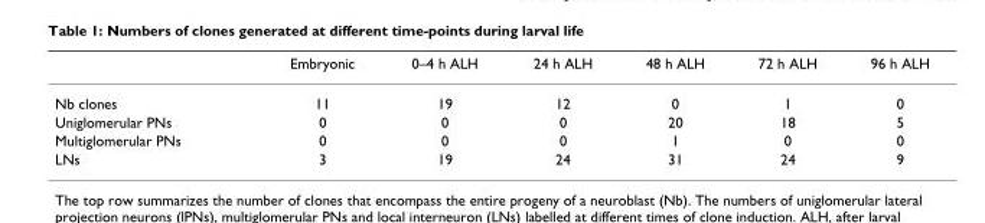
<table><thead><tr><td></td><td>Embryonic</td><td>0–4 h ALH</td><td>24 h ALH</td><td>48 h ALH</td><td>72 h ALH</td><td>96 h ALH</td></tr></thead><tbody><tr><td>Nb clones</td><td>11</td><td>19</td><td>12</td><td>0</td><td>1</td><td>0</td></tr><tr><td>Uniglomerular PNs</td><td>0</td><td>0</td><td>0</td><td>20</td><td>18</td><td>5</td></tr><tr><td>Multiglomerular PNs</td><td>0</td><td>0</td><td>0</td><td>1</td><td>0</td><td>0</td></tr><tr><td>LNs</td><td>3</td><td>19</td><td>24</td><td>31</td><td>24</td><td>9</td></tr></tbody></table>